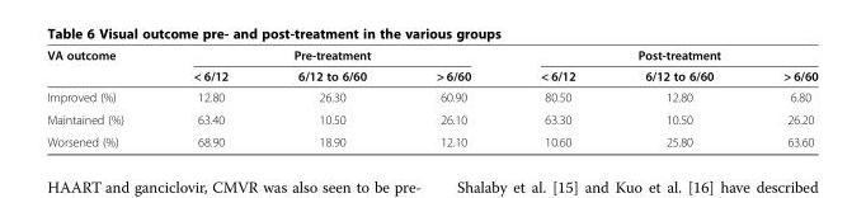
<table><thead><tr><td rowspan="2">VA outcome</td><td colspan="3">Pre-treatment</td><td colspan="3">Post-treatment</td></tr><tr><td>&lt; 6/12</td><td>6/12 to 6/60</td><td>&gt; 6/60</td><td>&lt; 6/12</td><td>6/12 to 6/60</td><td>&gt; 6/60</td></tr></thead><tbody><tr><td>Improved (%)</td><td>12.80</td><td>26.30</td><td>60.90</td><td>80.50</td><td>12.80</td><td>6.80</td></tr><tr><td>Maintained (%)</td><td>63.40</td><td>10.50</td><td>26.10</td><td>63.30</td><td>10.50</td><td>26.20</td></tr><tr><td>Worsened (%)</td><td>68.90</td><td>18.90</td><td>12.10</td><td>10.60</td><td>25.80</td><td>63.60</td></tr></tbody></table>